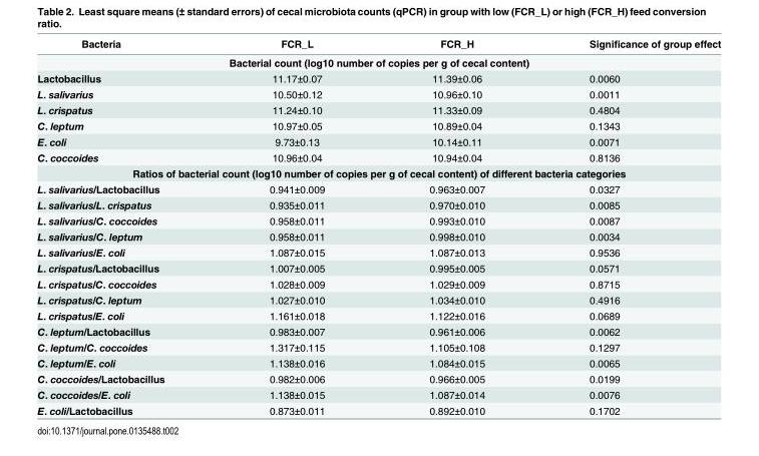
<table><thead><tr><td>Bacteria</td><td>FCR_L</td><td>FCR_H</td><td>Significance of group effect</td></tr></thead><tbody><tr><td colspan="4">Bacterial count (log10 number of copies per g of cecal content)</td></tr><tr><td>Lactobacillus</td><td>11.17±0.07</td><td>11.39±0.06</td><td>0.0060</td></tr><tr><td>L. salivarius</td><td>10.50±0.12</td><td>10.96±0.10</td><td>0.0011</td></tr><tr><td>L. crispatus</td><td>11.24±0.10</td><td>11.33±0.09</td><td>0.4804</td></tr><tr><td>C. leptum</td><td>10.97±0.05</td><td>10.89±0.04</td><td>0.1343</td></tr><tr><td>E. coli</td><td>9.73±0.13</td><td>10.14±0.11</td><td>0.0071</td></tr><tr><td>C. coccoides</td><td>10.96±0.04</td><td>10.94±0.04</td><td>0.8136</td></tr><tr><td colspan="4">Ratios of bacterial count (log10 number of copies per g of cecal content) of different bacteria categories</td></tr><tr><td>L. salivarius/Lactobacillus</td><td>0.941±0.009</td><td>0.963±0.007</td><td>0.0327</td></tr><tr><td>L. salivarius/L. crispatus</td><td>0.935±0.011</td><td>0.970±0.010</td><td>0.0085</td></tr><tr><td>L. salivarius/C. coccoides</td><td>0.958±0.011</td><td>0.993±0.010</td><td>0.0087</td></tr><tr><td>L. salivarius/C. leptum</td><td>0.958±0.011</td><td>0.998±0.010</td><td>0.0034</td></tr><tr><td>L. salivarius/E. coli</td><td>1.087±0.015</td><td>1.087±0.013</td><td>0.9536</td></tr><tr><td>L. crispatus/Lactobacillus</td><td>1.007±0.005</td><td>0.995±0.005</td><td>0.0571</td></tr><tr><td>L. crispatus/C. coccoides</td><td>1.028±0.009</td><td>1.029±0.009</td><td>0.8715</td></tr><tr><td>L. crispatus/C. leptum</td><td>1.027±0.010</td><td>1.034±0.010</td><td>0.4916</td></tr><tr><td>L. crispatus/E. coli</td><td>1.161±0.018</td><td>1.122±0.016</td><td>0.0689</td></tr><tr><td>C. leptum/Lactobacillus</td><td>0.983±0.007</td><td>0.961±0.006</td><td>0.0062</td></tr><tr><td>C. leptum/C. coccoides</td><td>1.317±0.115</td><td>1.105±0.108</td><td>0.1297</td></tr><tr><td>C. leptum/E. coli</td><td>1.138±0.016</td><td>1.084±0.015</td><td>0.0065</td></tr><tr><td>C. coccoides/Lactobacillus</td><td>0.982±0.006</td><td>0.966±0.005</td><td>0.0199</td></tr><tr><td>C. coccoides/E. coli</td><td>1.138±0.015</td><td>1.087±0.014</td><td>0.0076</td></tr><tr><td>E. coli/Lactobacillus</td><td>0.873±0.011</td><td>0.892±0.010</td><td>0.1702</td></tr></tbody></table>